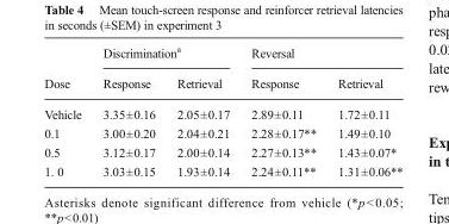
<table><thead><tr><td rowspan="2">Dose</td><td colspan="2">Discrimination<sup>a</sup></td><td colspan="2">Reversal</td></tr><tr><td>Response</td><td>Retrieval</td><td>Response</td><td>Retrieval</td></tr></thead><tbody><tr><td>Vehicle</td><td>3.35±0.16</td><td>2.05±0.17</td><td>2.89±0.11</td><td>1.72±0.11</td></tr><tr><td>0.1</td><td>3.00±0.20</td><td>2.04±0.21</td><td>2.28±0.17**</td><td>1.49±0.10</td></tr><tr><td>0.5</td><td>3.12±0.17</td><td>2.00±0.14</td><td>2.27±0.13**</td><td>1.43±0.07*</td></tr><tr><td>1. 0</td><td>3.03±0.15</td><td>1.93±0.14</td><td>2.24±0.11**</td><td>1.31±0.06**</td></tr></tbody></table>